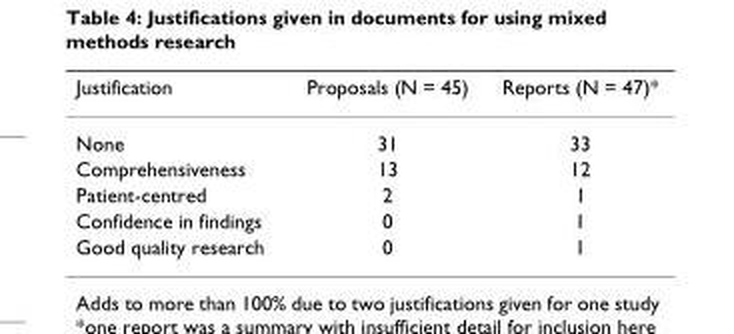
<table><thead><tr><td>Justification</td><td>Proposals (N = 45)</td><td>Reports (N = 47)*</td></tr></thead><tbody><tr><td>None</td><td>31</td><td>33</td></tr><tr><td>Comprehensiveness</td><td>13</td><td>12</td></tr><tr><td>Patient-centred</td><td>2</td><td>1</td></tr><tr><td>Confidence in findings</td><td>0</td><td>1</td></tr><tr><td>Good quality research</td><td>0</td><td>1</td></tr></tbody></table>